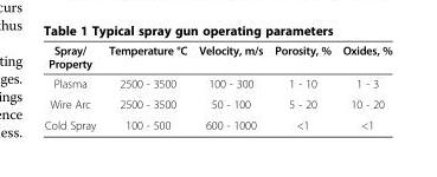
<table><thead><tr><td>Spray/ Property</td><td>Temperature °C</td><td>Velocity, m/s</td><td>Porosity, %</td><td>Oxides, %</td></tr></thead><tbody><tr><td>Plasma</td><td>2500 - 3500</td><td>100 - 300</td><td>1 - 10</td><td>1 - 3</td></tr><tr><td>Wire Arc</td><td>2500 - 3500</td><td>50 - 100</td><td>5 - 20</td><td>10 - 20</td></tr><tr><td>Cold Spray</td><td>100 - 500</td><td>600 - 1000</td><td>&lt;1</td><td>&lt;1</td></tr></tbody></table>